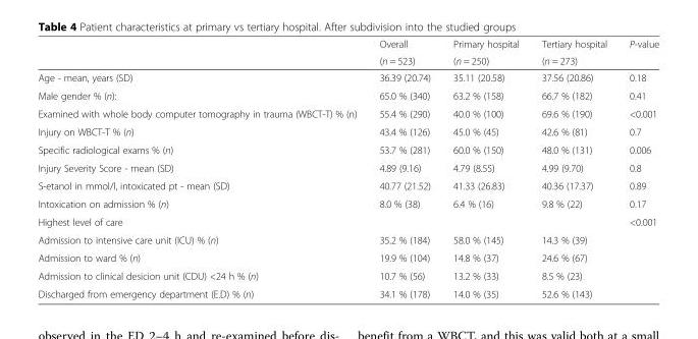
<table><thead><tr><td rowspan="2"></td><td rowspan="2">Overall (n = 523)</td><td rowspan="2">Primary hospital (n = 250)</td><td rowspan="2">Tertiary hospital (n = 273)</td><td rowspan="2">P-value</td></tr><tr></tr></thead><tbody><tr><td>Age - mean, years (SD)</td><td>36.39 (20.74)</td><td>35.11 (20.58)</td><td>37.56 (20.86)</td><td>0.18</td></tr><tr><td>Male gender % (n):</td><td>65.0 % (340)</td><td>63.2 % (158)</td><td>66.7 % (182)</td><td>0.41</td></tr><tr><td>Examined with whole body computer tomography in trauma (WBCT-T) % (n)</td><td>55.4 % (290)</td><td>40.0 % (100)</td><td>69.6 % (190)</td><td>&lt;0.001</td></tr><tr><td>Injury on WBCT-T % (n)</td><td>43.4 % (126)</td><td>45.0 % (45)</td><td>42.6 % (81)</td><td>0.7</td></tr><tr><td>Specific radiological exams % (n)</td><td>53.7 % (281)</td><td>60.0 % (150)</td><td>48.0 % (131)</td><td>0.006</td></tr><tr><td>Injury Severity Score - mean (SD)</td><td>4.89 (9.16)</td><td>4.79 (8.55)</td><td>4.99 (9.70)</td><td>0.8</td></tr><tr><td>S-etanol in mmol/l, intoxicated pt - mean (SD)</td><td>40.77 (21.52)</td><td>41.33 (26.83)</td><td>40.36 (17.37)</td><td>0.89</td></tr><tr><td>Intoxication on admission % (n)</td><td>8.0 % (38)</td><td>6.4 % (16)</td><td>9.8 % (22)</td><td>0.17</td></tr><tr><td>Highest level of care</td><td></td><td></td><td></td><td>&lt;0.001</td></tr><tr><td>Admission to intensive care unit (ICU) % (n)</td><td>35.2 % (184)</td><td>58.0 % (145)</td><td>14.3 % (39)</td><td></td></tr><tr><td>Admission to ward % (n)</td><td>19.9 % (104)</td><td>14.8 % (37)</td><td>24.6 % (67)</td><td></td></tr><tr><td>Admission to clinical desicion unit (CDU) &lt;24 h % (n)</td><td>10.7 % (56)</td><td>13.2 % (33)</td><td>8.5 % (23)</td><td></td></tr><tr><td>Discharged from emergency department (E.D) % (n)</td><td>34.1 % (178)</td><td>14.0 % (35)</td><td>52.6 % (143)</td><td></td></tr></tbody></table>